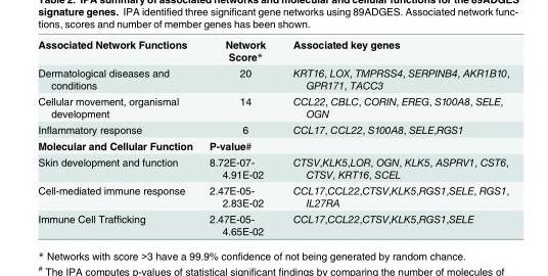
<table><tbody><tr><td>Associated Network Functions</td><td>Network Score*</td><td>Associated key genes</td></tr><tr><td>Dermatological diseases and conditions</td><td>20</td><td>KRT16, LOX, TMPRSS4, SERPINB4, AKR1B10, GPR171, TACC3</td></tr><tr><td>Cellular movement, organismal development</td><td>14</td><td>CCL22, CBLC, CORIN, EREG, S100A8, SELE, OGN</td></tr><tr><td>Inflammatory response</td><td>6</td><td>CCL17, CCL22, S100A8, SELE,RGS1</td></tr><tr><td>Molecular and Cellular Function</td><td>P-value#</td><td></td></tr><tr><td>Skin development and function</td><td>8.72E-07- 4.91E-02</td><td>CTSV,KLK5,LOR, OGN, KLK5, ASPRV1, CST6, CTSV, KRT16, SCEL</td></tr><tr><td>Cell-mediated immune response</td><td>2.47E-05- 2.83E-02</td><td>CCL17,CCL22,CTSV,KLK5,RGS1,SELE, RGS1, IL27RA</td></tr><tr><td>Immune Cell Trafficking</td><td>2.47E-05- 4.65E-02</td><td>CCL17,CCL22,CTSV,KLK5,RGS1,SELE</td></tr></tbody></table>